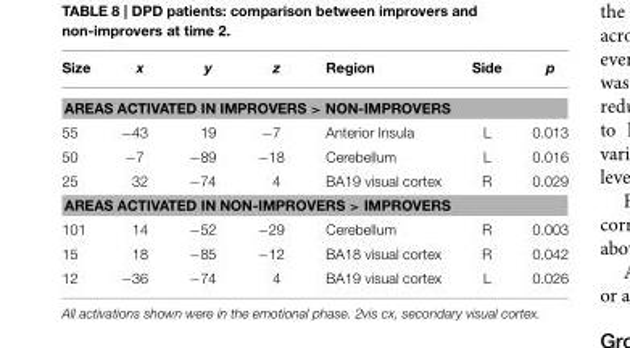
<table><thead><tr><td>Size</td><td>x</td><td>y</td><td>z</td><td>Region</td><td>Side</td><td>p</td></tr></thead><tbody><tr><td colspan="7">AREAS ACTIVATED IN IMPROVERS &gt; NON-IMPROVERS</td></tr><tr><td>55</td><td>−43</td><td>19</td><td>−7</td><td>Anterior Insula</td><td>L</td><td>0.013</td></tr><tr><td>50</td><td>−7</td><td>−89</td><td>−18</td><td>Cerebellum</td><td>L</td><td>0.016</td></tr><tr><td>25</td><td>32</td><td>−74</td><td>4</td><td>BA19 visual cortex</td><td>R</td><td>0.029</td></tr><tr><td colspan="7">AREAS ACTIVATED IN NON-IMPROVERS &gt; IMPROVERS</td></tr><tr><td>101</td><td>14</td><td>−52</td><td>−29</td><td>Cerebellum</td><td>R</td><td>0.003</td></tr><tr><td>15</td><td>18</td><td>−85</td><td>−12</td><td>BA18 visual cortex</td><td>R</td><td>0.042</td></tr><tr><td>12</td><td>−36</td><td>−74</td><td>4</td><td>BA19 visual cortex</td><td>L</td><td>0.026</td></tr></tbody></table>